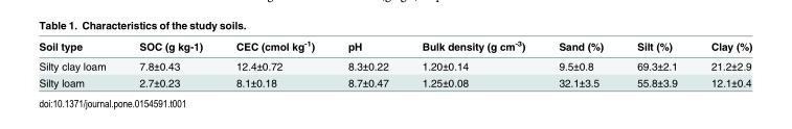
<table><thead><tr><td>Soil type</td><td>SOC (g kg-1)</td><td>CEC (cmol kg<sup>-1</sup>)</td><td>pH</td><td>Bulk density (g cm<sup>-3</sup>)</td><td>Sand (%)</td><td>Silt (%)</td><td>Clay (%)</td></tr></thead><tbody><tr><td>Silty clay loam</td><td>7.8±0.43</td><td>12.4±0.72</td><td>8.3±0.22</td><td>1.20±0.14</td><td>9.5±0.8</td><td>69.3±2.1</td><td>21.2±2.9</td></tr><tr><td>Silty loam</td><td>2.7±0.23</td><td>8.1±0.18</td><td>8.7±0.47</td><td>1.25±0.08</td><td>32.1±3.5</td><td>55.8±3.9</td><td>12.1±0.4</td></tr></tbody></table>